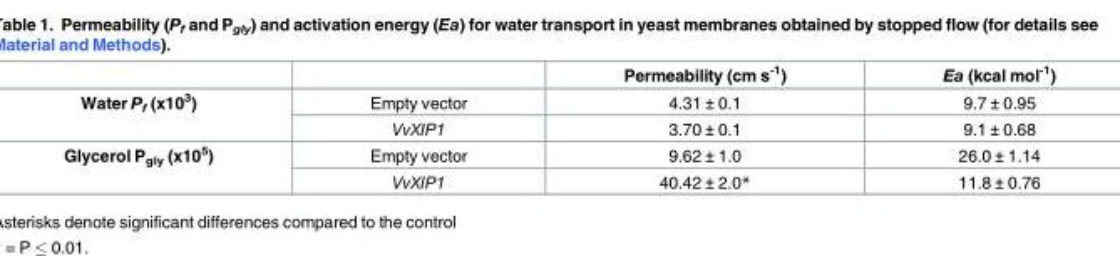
<table><thead><tr><td></td><td></td><td>Permeability (cm s<sup>-1</sup>)</td><td>Ea (kcal mol<sup>-1</sup>)</td></tr></thead><tbody><tr><td rowspan="2">Water P<sub>f</sub> (x10<sup>3</sup>)</td><td>Empty vector</td><td>4.31 ± 0.1</td><td>9.7 ± 0.95</td></tr><tr><td>VvXIP1</td><td>3.70 ± 0.1</td><td>9.1 ± 0.68</td></tr><tr><td rowspan="2">Glycerol P<sub>gly</sub> (x10<sup>5</sup>)</td><td>Empty vector</td><td>9.62 ± 1.0</td><td>26.0 ± 1.14</td></tr><tr><td>VvXIP1</td><td>40.42 ± 2.0*</td><td>11.8 ± 0.76</td></tr></tbody></table>